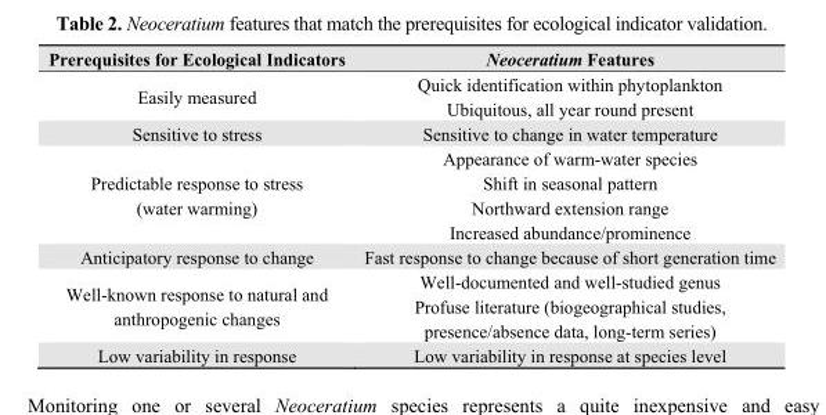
<table><thead><tr><td>Prerequisites for Ecological Indicators</td><td>Neoceratium Features</td></tr></thead><tbody><tr><td rowspan="2">Easily measured</td><td>Quick identification within phytoplankton</td></tr><tr><td>Ubiquitous, all year round present</td></tr><tr><td>Sensitive to stress</td><td>Sensitive to change in water temperature</td></tr><tr><td rowspan="4">Predictable response to stress (water warming)</td><td>Appearance of warm-water species</td></tr><tr><td>Shift in seasonal pattern</td></tr><tr><td>Northward extension range</td></tr><tr><td>Increased abundance/prominence</td></tr><tr><td>Anticipatory response to change</td><td>Fast response to change because of short generation time</td></tr><tr><td rowspan="2">Well-known response to natural and anthropogenic changes</td><td>Well-documented and well-studied genus</td></tr><tr><td>Profuse literature (biogeographical studies, presence/absence data, long-term series)</td></tr><tr><td>Low variability in response</td><td>Low variability in response at species level</td></tr></tbody></table>